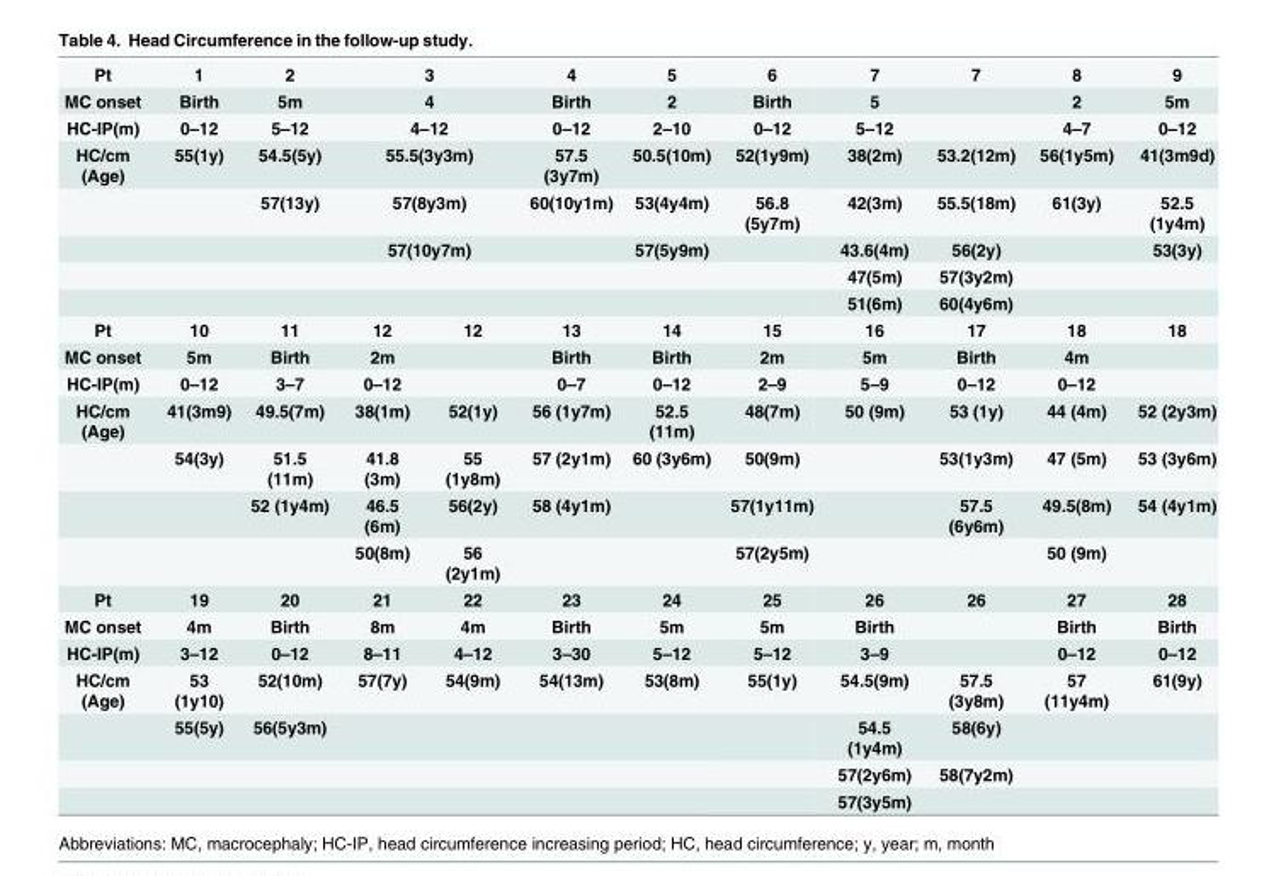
<table><tbody><tr><td>Pt</td><td>1</td><td>2</td><td colspan="2">3</td><td>4</td><td>5</td><td>6</td><td>7</td><td>7</td><td>8</td><td>9</td></tr><tr><td>MC onset</td><td>Birth</td><td>5m</td><td colspan="2">4</td><td>Birth</td><td>2</td><td>Birth</td><td>5</td><td></td><td>2</td><td>5m</td></tr><tr><td>HC-IP(m)</td><td>0–12</td><td>5–12</td><td colspan="2">4–12</td><td>0–12</td><td>2–10</td><td>0–12</td><td>5–12</td><td></td><td>4–7</td><td>0–12</td></tr><tr><td rowspan="5">HC/cm (Age)</td><td>55(1y)</td><td>54.5(5y)</td><td colspan="2">55.5(3y3m)</td><td>57.5 (3y7m)</td><td>50.5(10m)</td><td>52(1y9m)</td><td>38(2m)</td><td>53.2(12m)</td><td>56(1y5m)</td><td>41(3m9d)</td></tr><tr><td></td><td>57(13y)</td><td colspan="2">57(8y3m)</td><td>60(10y1m)</td><td>53(4y4m)</td><td>56.8 (5y7m)</td><td>42(3m)</td><td>55.5(18m)</td><td>61(3y)</td><td>52.5 (1y4m)</td></tr><tr><td></td><td></td><td colspan="2">57(10y7m)</td><td></td><td>57(5y9m)</td><td></td><td>43.6(4m)</td><td>56(2y)</td><td></td><td>53(3y)</td></tr><tr><td></td><td></td><td colspan="2"></td><td></td><td></td><td></td><td>47(5m)</td><td>57(3y2m)</td><td></td><td></td></tr><tr><td></td><td></td><td colspan="2"></td><td></td><td></td><td></td><td>51(6m)</td><td>60(4y6m)</td><td></td><td></td></tr><tr><td>Pt</td><td>10</td><td>11</td><td>12</td><td>12</td><td>13</td><td>14</td><td>15</td><td>16</td><td>17</td><td>18</td><td>18</td></tr><tr><td>MC onset</td><td>5m</td><td>Birth</td><td>2m</td><td></td><td>Birth</td><td>Birth</td><td>2m</td><td>5m</td><td>Birth</td><td>4m</td><td></td></tr><tr><td>HC-IP(m)</td><td>0–12</td><td>3–7</td><td>0–12</td><td></td><td>0–7</td><td>0–12</td><td>2–9</td><td>5–9</td><td>0–12</td><td>0–12</td><td></td></tr><tr><td rowspan="4">HC/cm (Age)</td><td>41(3m9)</td><td>49.5(7m)</td><td>38(1m)</td><td>52(1y)</td><td>56 (1y7m)</td><td>52.5 (11m)</td><td>48(7m)</td><td>50 (9m)</td><td>53 (1y)</td><td>44 (4m)</td><td>52 (2y3m)</td></tr><tr><td>54(3y)</td><td>51.5 (11m)</td><td>41.8 (3m)</td><td>55 (1y8m)</td><td>57 (2y1m)</td><td>60 (3y6m)</td><td>50(9m)</td><td></td><td>53(1y3m)</td><td>47 (5m)</td><td>53 (3y6m)</td></tr><tr><td></td><td>52 (1y4m)</td><td>46.5 (6m)</td><td>56(2y)</td><td>58 (4y1m)</td><td></td><td>57(1y11m)</td><td></td><td>57.5 (6y6m)</td><td>49.5(8m)</td><td>54 (4y1m)</td></tr><tr><td></td><td></td><td>50(8m)</td><td>56 (2y1m)</td><td></td><td></td><td>57(2y5m)</td><td></td><td></td><td>50 (9m)</td><td></td></tr><tr><td>Pt</td><td>19</td><td>20</td><td>21</td><td>22</td><td>23</td><td>24</td><td>25</td><td>26</td><td>26</td><td>27</td><td>28</td></tr><tr><td>MC onset</td><td>4m</td><td>Birth</td><td>8m</td><td>4m</td><td>Birth</td><td>5m</td><td>5m</td><td>Birth</td><td></td><td>Birth</td><td>Birth</td></tr><tr><td>HC-IP(m)</td><td>3–12</td><td>0–12</td><td>8–11</td><td>4–12</td><td>3–30</td><td>5–12</td><td>5–12</td><td>3–9</td><td></td><td>0–12</td><td>0–12</td></tr><tr><td rowspan="4">HC/cm (Age)</td><td>53 (1y10)</td><td>52(10m)</td><td>57(7y)</td><td>54(9m)</td><td>54(13m)</td><td>53(8m)</td><td>55(1y)</td><td>54.5(9m)</td><td>57.5 (3y8m)</td><td>57 (11y4m)</td><td>61(9y)</td></tr><tr><td>55(5y)</td><td>56(5y3m)</td><td></td><td></td><td></td><td></td><td></td><td>54.5 (1y4m)</td><td>58(6y)</td><td></td><td></td></tr><tr><td></td><td></td><td></td><td></td><td></td><td></td><td></td><td>57(2y6m)</td><td>58(7y2m)</td><td></td><td></td></tr><tr><td></td><td></td><td></td><td></td><td></td><td></td><td></td><td>57(3y5m)</td><td></td><td></td><td></td></tr></tbody></table>